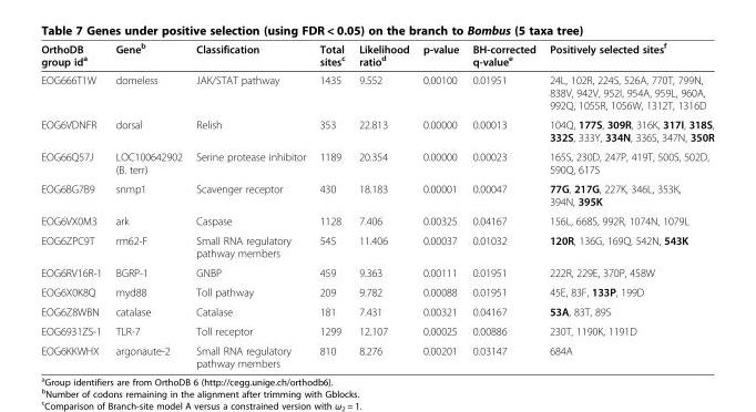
<table><thead><tr><td>OrthoDB group id<sup>a</sup></td><td>Gene<sup>b</sup></td><td>Classification</td><td>Total sites<sup>c</sup></td><td>Likelihood ratio<sup>d</sup></td><td>p-value</td><td>BH-corrected q-value<sup>e</sup></td><td>Positively selected sites<sup>f</sup></td></tr></thead><tbody><tr><td>EOG666T1W</td><td>domeless</td><td>JAK/STAT pathway</td><td>1435</td><td>9.552</td><td>0.00100</td><td>0.01951</td><td>24L, 102R, 224S, 526A, 770T, 799N, 838V, 942V, 952I, 954A, 959L, 960A, 992Q, 1055R, 1056W, 1312T, 1316D</td></tr><tr><td>EOG6VDNFR</td><td>dorsal</td><td>Relish</td><td>353</td><td>22.813</td><td>0.00000</td><td>0.00013</td><td>104Q, 177S, 309R, 316K, 317I, 318S, 332S, 333Y, 334N, 336S, 347N, 350R</td></tr><tr><td>EOG66Q57J</td><td>LOC100642902 (B. terr)</td><td>Serine protease inhibitor</td><td>1189</td><td>20.354</td><td>0.00000</td><td>0.00023</td><td>165S, 230D, 247P, 419T, 500S, 502D, 590Q, 617S</td></tr><tr><td>EOG6BG7B9</td><td>snmp1</td><td>Scavenger receptor</td><td>430</td><td>18.183</td><td>0.00001</td><td>0.00047</td><td>77G, 217G, 227K, 346L, 353K, 394N, 395K</td></tr><tr><td>EOG6VX0M3</td><td>ark</td><td>Caspase</td><td>1128</td><td>7.406</td><td>0.00325</td><td>0.04167</td><td>156L, 668S, 992R, 1074N, 1079L</td></tr><tr><td>EOG6ZPC9T</td><td>rm62-F</td><td>Small RNA regulatory pathway members</td><td>545</td><td>11.406</td><td>0.00037</td><td>0.01032</td><td>120R, 136G, 169Q, 542N, 543K</td></tr><tr><td>EOG6RV16R-1</td><td>BGRP-1</td><td>GNBP</td><td>459</td><td>9.363</td><td>0.00111</td><td>0.01951</td><td>222R, 229E, 370P, 458W</td></tr><tr><td>EOG6X0K8Q</td><td>myd88</td><td>Toll pathway</td><td>209</td><td>9.782</td><td>0.00088</td><td>0.01951</td><td>45E, 83F, 133P, 199D</td></tr><tr><td>EOG6Z8WBN</td><td>catalase</td><td>Catalase</td><td>181</td><td>7.431</td><td>0.00321</td><td>0.04167</td><td>53A, 83T, 89S</td></tr><tr><td>EOG6931ZS-1</td><td>TLR-7</td><td>Toll receptor</td><td>1299</td><td>12.107</td><td>0.00025</td><td>0.00886</td><td>230T, 1190K, 1191D</td></tr><tr><td>EOG6KKWHX</td><td>argonaute-2</td><td>Small RNA regulatory pathway members</td><td>810</td><td>8.276</td><td>0.00201</td><td>0.03147</td><td>684A</td></tr></tbody></table>